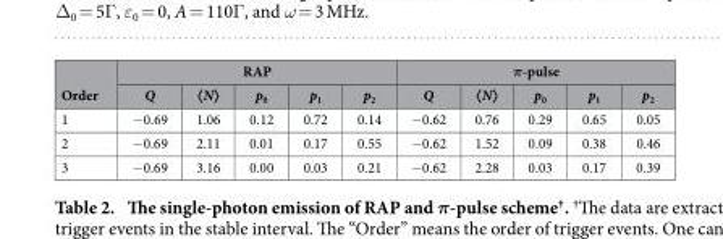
<table><thead><tr><td rowspan="2">Order</td><td colspan="5">RAP</td><td colspan="5">π-pulse</td></tr><tr><td>Q</td><td>〈N〉</td><td>p<sub>0</sub></td><td>p<sub>1</sub></td><td>p<sub>2</sub></td><td>Q</td><td>〈N〉</td><td>p<sub>0</sub></td><td>p<sub>1</sub></td><td>p<sub>2</sub></td></tr></thead><tbody><tr><td>1</td><td>− 0.69</td><td>1.06</td><td>0.12</td><td>0.72</td><td>0.14</td><td>− 0.62</td><td>0.76</td><td>0.29</td><td>0.65</td><td>0.05</td></tr><tr><td>2</td><td>− 0.69</td><td>2.11</td><td>0.01</td><td>0.17</td><td>0.55</td><td>− 0.62</td><td>1.52</td><td>0.09</td><td>0.38</td><td>0.46</td></tr><tr><td>3</td><td>− 0.69</td><td>3.16</td><td>0.00</td><td>0.03</td><td>0.21</td><td>− 0.62</td><td>2.28</td><td>0.03</td><td>0.17</td><td>0.39</td></tr></tbody></table>